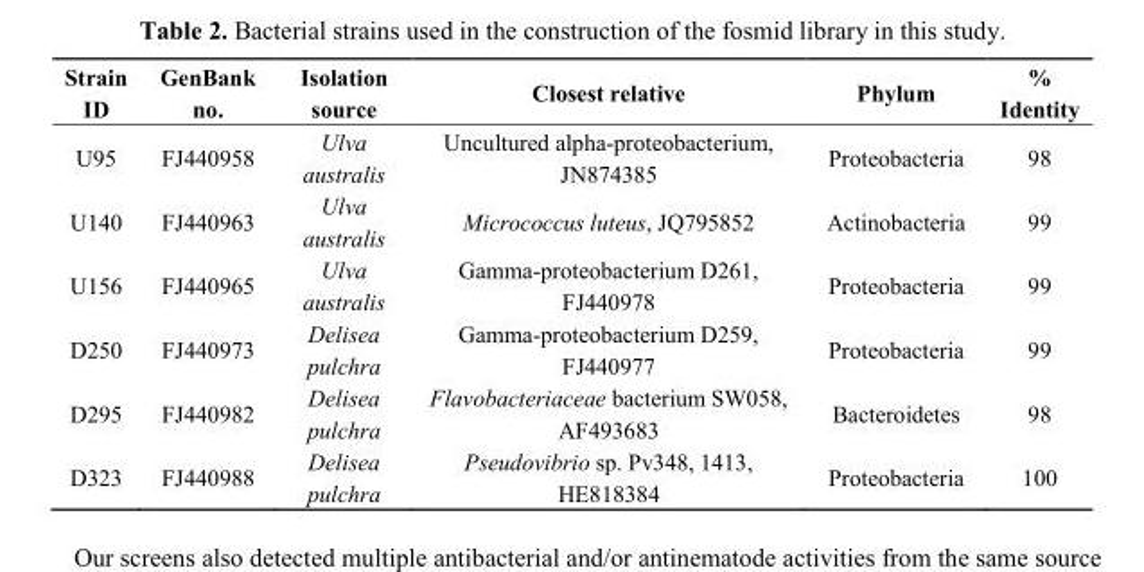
<table><thead><tr><td>Strain ID</td><td>GenBank no.</td><td>Isolation source</td><td>Closest relative</td><td>Phylum</td><td>% Identity</td></tr></thead><tbody><tr><td>U95</td><td>FJ440958</td><td>Ulva australis</td><td>Uncultured alpha-proteobacterium, JN874385</td><td>Proteobacteria</td><td>98</td></tr><tr><td>U140</td><td>FJ440963</td><td>Ulva australis</td><td>Micrococcus luteus, JQ795852</td><td>Actinobacteria</td><td>99</td></tr><tr><td>U156</td><td>FJ440965</td><td>Ulva australis</td><td>Gamma-proteobacterium D261, FJ440978</td><td>Proteobacteria</td><td>99</td></tr><tr><td>D250</td><td>FJ440973</td><td>Delisea pulchra</td><td>Gamma-proteobacterium D259, FJ440977</td><td>Proteobacteria</td><td>99</td></tr><tr><td>D295</td><td>FJ440982</td><td>Delisea pulchra</td><td>Flavobacteriaceae bacterium SW058, AF493683</td><td>Bacteroidetes</td><td>98</td></tr><tr><td>D323</td><td>FJ440988</td><td>Delisea pulchra</td><td>Pseudovibrio sp. Pv348, 1413, HE818384</td><td>Proteobacteria</td><td>100</td></tr></tbody></table>